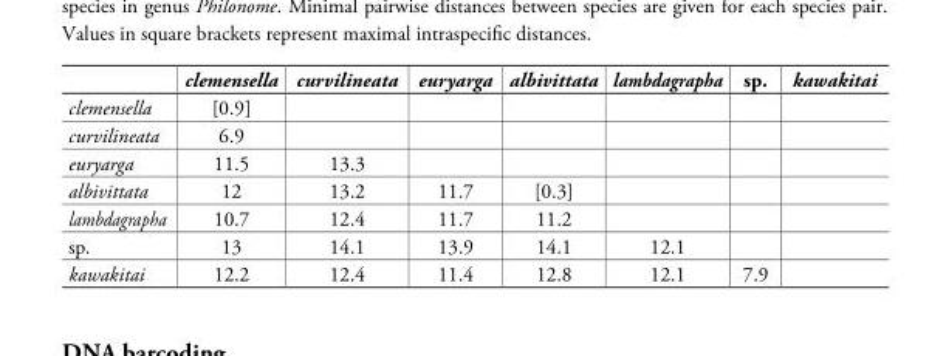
<table><thead><tr><td></td><td>clemensella</td><td>curvilineata</td><td>euryarga</td><td>albivittata</td><td>lambdagrapha</td><td>sp.</td><td>kawakitai</td></tr></thead><tbody><tr><td>clemensella</td><td>[0.9]</td><td></td><td></td><td></td><td></td><td></td><td></td></tr><tr><td>curvilineata</td><td>6.9</td><td></td><td></td><td></td><td></td><td></td><td></td></tr><tr><td>euryarga</td><td>11.5</td><td>13.3</td><td></td><td></td><td></td><td></td><td></td></tr><tr><td>albivittata</td><td>12</td><td>13.2</td><td>11.7</td><td>[0.3]</td><td></td><td></td><td></td></tr><tr><td>lambdagrapha</td><td>10.7</td><td>12.4</td><td>11.7</td><td>11.2</td><td></td><td></td><td></td></tr><tr><td>sp.</td><td>13</td><td>14.1</td><td>13.9</td><td>14.1</td><td>12.1</td><td></td><td></td></tr><tr><td>kawakitai</td><td>12.2</td><td>12.4</td><td>11.4</td><td>12.8</td><td>12.1</td><td>7.9</td><td></td></tr></tbody></table>